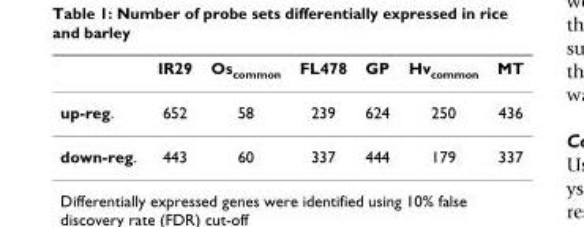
<table><thead><tr><td></td><td>IR29</td><td>Os<sub>common</sub></td><td>FL478</td><td>GP</td><td>Hv<sub>common</sub></td><td>MT</td></tr></thead><tbody><tr><td>up-reg.</td><td>652</td><td>58</td><td>239</td><td>624</td><td>250</td><td>436</td></tr><tr><td>down-reg.</td><td>443</td><td>60</td><td>337</td><td>444</td><td>179</td><td>337</td></tr></tbody></table>